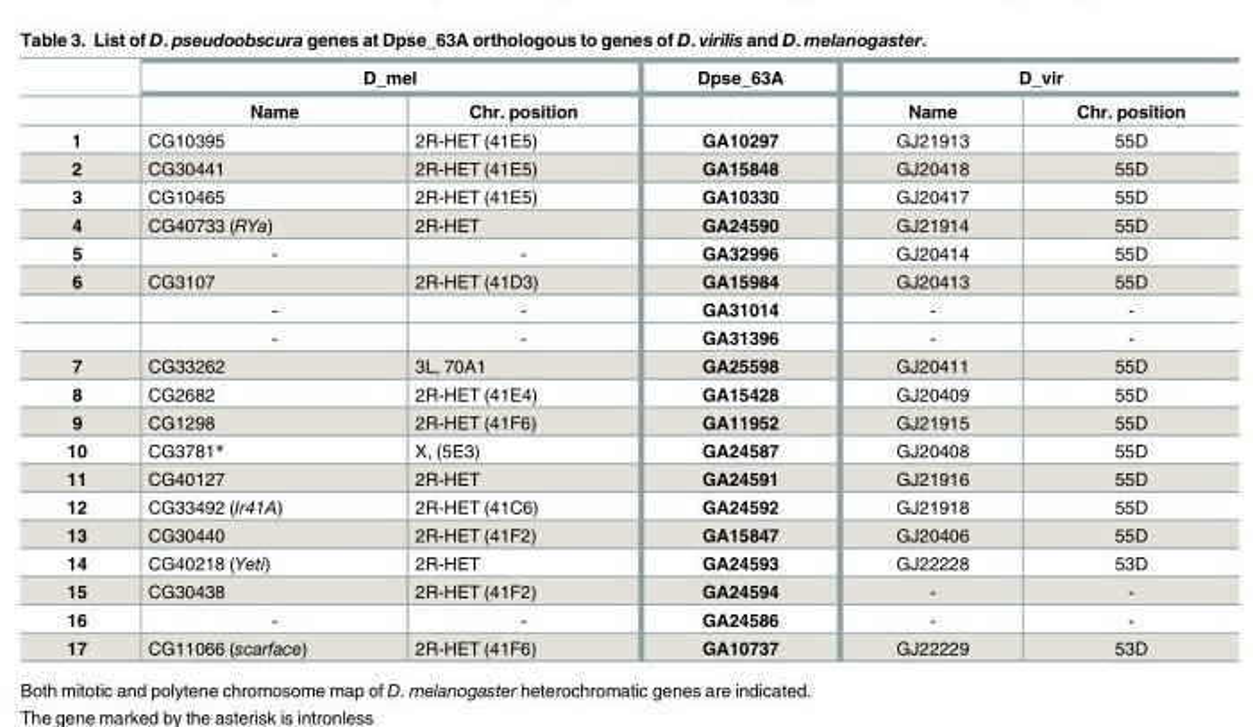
<table><thead><tr><td rowspan="2"></td><td colspan="2">D_mel</td><td rowspan="2">Dpse_63A</td><td colspan="2">D_vir</td></tr><tr><td>Name</td><td>Chr. position</td><td>Name</td><td>Chr. position</td></tr></thead><tbody><tr><td>1</td><td>CG10395</td><td>2R-HET (41E5)</td><td>GA10297</td><td>GJ21913</td><td>55D</td></tr><tr><td>2</td><td>CG30441</td><td>2R-HET (41E5)</td><td>GA15848</td><td>GJ20418</td><td>55D</td></tr><tr><td>3</td><td>CG10465</td><td>2R-HET (41E5)</td><td>GA10330</td><td>GJ20417</td><td>55D</td></tr><tr><td>4</td><td>CG40733 (RYa)</td><td>2R-HET</td><td>GA24590</td><td>GJ21914</td><td>55D</td></tr><tr><td>5</td><td>-</td><td>-</td><td>GA32996</td><td>GJ20414</td><td>55D</td></tr><tr><td rowspan="3">6</td><td>CG3107</td><td>2R-HET (41D3)</td><td>GA15984</td><td>GJ20413</td><td>55D</td></tr><tr><td>-</td><td>-</td><td>GA31014</td><td>-</td><td>-</td></tr><tr><td>-</td><td>-</td><td>GA31396</td><td>-</td><td>-</td></tr><tr><td>7</td><td>CG33262</td><td>3L, 70A1</td><td>GA25598</td><td>GJ20411</td><td>55D</td></tr><tr><td>8</td><td>CG2682</td><td>2R-HET (41E4)</td><td>GA15428</td><td>GJ20409</td><td>55D</td></tr><tr><td>9</td><td>CG1298</td><td>2R-HET (41F6)</td><td>GA11952</td><td>GJ21915</td><td>55D</td></tr><tr><td>10</td><td>CG3781*</td><td>X, (5E3)</td><td>GA24587</td><td>GJ20408</td><td>55D</td></tr><tr><td>11</td><td>CG40127</td><td>2R-HET</td><td>GA24591</td><td>GJ21916</td><td>55D</td></tr><tr><td>12</td><td>CG33492 (Ir41A)</td><td>2R-HET (41C6)</td><td>GA24592</td><td>GJ21918</td><td>55D</td></tr><tr><td>13</td><td>CG30440</td><td>2R-HET (41F2)</td><td>GA15847</td><td>GJ20406</td><td>55D</td></tr><tr><td>14</td><td>CG40218 (Yeti)</td><td>2R-HET</td><td>GA24593</td><td>GJ22228</td><td>53D</td></tr><tr><td>15</td><td>CG30438</td><td>2R-HET (41F2)</td><td>GA24594</td><td>-</td><td>-</td></tr><tr><td>16</td><td>-</td><td>-</td><td>GA24586</td><td>-</td><td>-</td></tr><tr><td>17</td><td>CG11066 (scarface)</td><td>2R-HET (41F6)</td><td>GA10737</td><td>GJ22229</td><td>53D</td></tr></tbody></table>